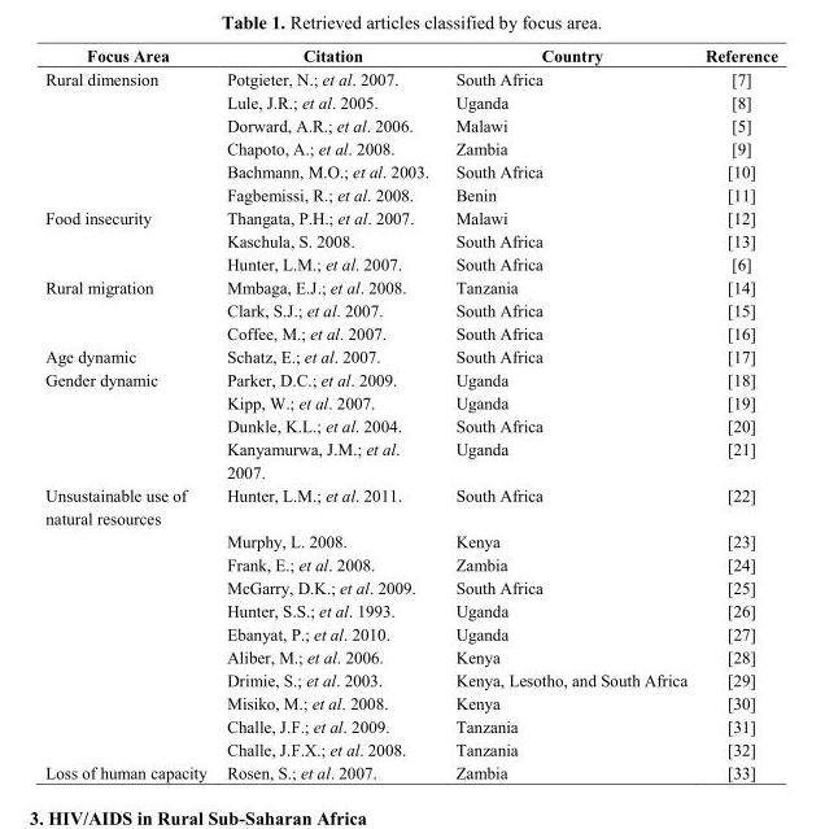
<table><thead><tr><td>Focus Area</td><td>Citation</td><td>Country</td><td>Reference</td></tr></thead><tbody><tr><td rowspan="6">Rural dimension</td><td>Potgieter, N.; et al. 2007.</td><td>South Africa</td><td>[7]</td></tr><tr><td>Lule, J.R.; et al. 2005.</td><td>Uganda</td><td>[8]</td></tr><tr><td>Dorward, A.R.; et al. 2006.</td><td>Malawi</td><td>[5]</td></tr><tr><td>Chapoto, A.; et al. 2008.</td><td>Zambia</td><td>[9]</td></tr><tr><td>Bachmann, M.O.; et al. 2003.</td><td>South Africa</td><td>[10]</td></tr><tr><td>Fagbemissi, R.; et al. 2008.</td><td>Benin</td><td>[11]</td></tr><tr><td rowspan="3">Food insecurity</td><td>Thangata, P.H.; et al. 2007.</td><td>Malawi</td><td>[12]</td></tr><tr><td>Kaschula, S. 2008.</td><td>South Africa</td><td>[13]</td></tr><tr><td>Hunter, L.M.; et al. 2007.</td><td>South Africa</td><td>[6]</td></tr><tr><td rowspan="3">Rural migration</td><td>Mmbaga, E.J.; et al. 2008.</td><td>Tanzania</td><td>[14]</td></tr><tr><td>Clark, S.J.; et al. 2007.</td><td>South Africa</td><td>[15]</td></tr><tr><td>Coffee, M.; et al. 2007.</td><td>South Africa</td><td>[16]</td></tr><tr><td>Age dynamic</td><td>Schatz, E.; et al. 2007.</td><td>South Africa</td><td>[17]</td></tr><tr><td rowspan="4">Gender dynamic</td><td>Parker, D.C.; et al. 2009.</td><td>Uganda</td><td>[18]</td></tr><tr><td>Kipp, W.; et al. 2007.</td><td>Uganda</td><td>[19]</td></tr><tr><td>Dunkle, K.L.; et al. 2004.</td><td>South Africa</td><td>[20]</td></tr><tr><td>Kanyamurwa, J.M.; et al. 2007.</td><td>Uganda</td><td>[21]</td></tr><tr><td rowspan="11">Unsustainable use of natural resources</td><td>Hunter, L.M.; et al. 2011.</td><td>South Africa</td><td>[22]</td></tr><tr><td>Murphy, L. 2008.</td><td>Kenya</td><td>[23]</td></tr><tr><td>Frank, E.; et al. 2008.</td><td>Zambia</td><td>[24]</td></tr><tr><td>McGarry, D.K.; et al. 2009.</td><td>South Africa</td><td>[25]</td></tr><tr><td>Hunter, S.S.; et al. 1993.</td><td>Uganda</td><td>[26]</td></tr><tr><td>Ebanyat, P.; et al. 2010.</td><td>Uganda</td><td>[27]</td></tr><tr><td>Aliber, M.; et al. 2006.</td><td>Kenya</td><td>[28]</td></tr><tr><td>Drimie, S.; et al. 2003.</td><td>Kenya, Lesotho, and South Africa</td><td>[29]</td></tr><tr><td>Misiko, M.; et al. 2008.</td><td>Kenya</td><td>[30]</td></tr><tr><td>Challe, J.F.; et al. 2009.</td><td>Tanzania</td><td>[31]</td></tr><tr><td>Challe, J.F.X.; et al. 2008.</td><td>Tanzania</td><td>[32]</td></tr><tr><td>Loss of human capacity</td><td>Rosen, S.; et al. 2007.</td><td>Zambia</td><td>[33]</td></tr></tbody></table>